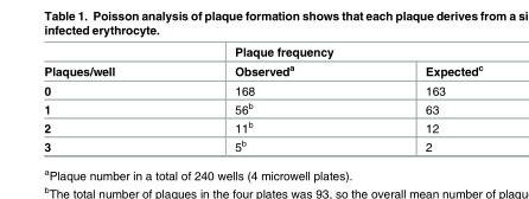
<table><thead><tr><td rowspan="2">Plaques/well</td><td colspan="2">Plaque frequency</td></tr><tr><td>Observed<sup>a</sup></td><td>Expected<sup>c</sup></td></tr></thead><tbody><tr><td>0</td><td>168</td><td>163</td></tr><tr><td>1</td><td>56<sup>b</sup></td><td>63</td></tr><tr><td>2</td><td>11<sup>b</sup></td><td>12</td></tr><tr><td>3</td><td>5<sup>b</sup></td><td>2</td></tr></tbody></table>